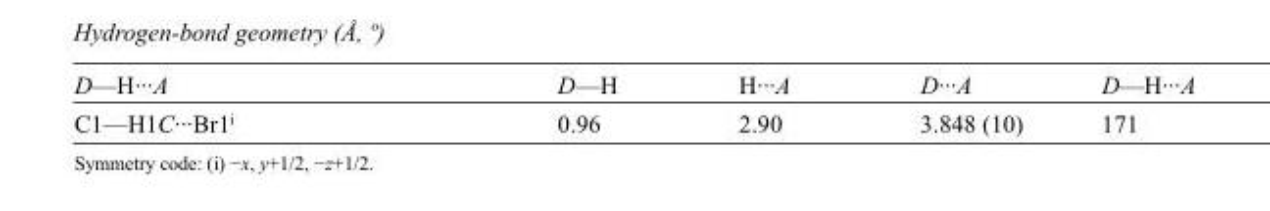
<table><tbody><tr><td>D—H···A</td><td>D—H</td><td>H···A</td><td>D···A</td><td>D—H···A</td></tr><tr><td>C1—H1C···Br1<sup>i</sup></td><td>0.96</td><td>2.90</td><td>3.848 (10)</td><td>171</td></tr></tbody></table>